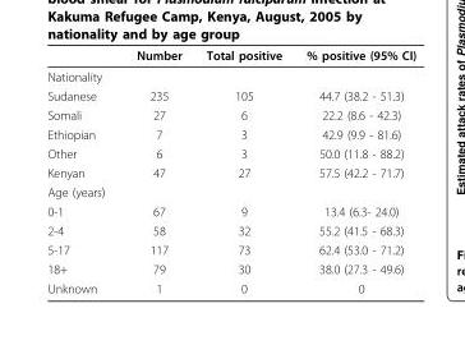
<table><thead><tr><td></td><td>Number</td><td>Total positive</td><td>% positive (95% CI)</td></tr></thead><tbody><tr><td colspan="4">Nationality</td></tr><tr><td>Sudanese</td><td>235</td><td>105</td><td>44.7 (38.2 - 51.3)</td></tr><tr><td>Somali</td><td>27</td><td>6</td><td>22.2 (8.6 - 42.3)</td></tr><tr><td>Ethiopian</td><td>7</td><td>3</td><td>42.9 (9.9 - 81.6)</td></tr><tr><td>Other</td><td>6</td><td>3</td><td>50.0 (11.8 - 88.2)</td></tr><tr><td>Kenyan</td><td>47</td><td>27</td><td>57.5 (42.2 - 71.7)</td></tr><tr><td colspan="4">Age (years)</td></tr><tr><td>0-1</td><td>67</td><td>9</td><td>13.4 (6.3- 24.0)</td></tr><tr><td>2-4</td><td>58</td><td>32</td><td>55.2 (41.5 - 68.3)</td></tr><tr><td>5-17</td><td>117</td><td>73</td><td>62.4 (53.0 - 71.2)</td></tr><tr><td>18+</td><td>79</td><td>30</td><td>38.0 (27.3 - 49.6)</td></tr><tr><td>Unknown</td><td>1</td><td>0</td><td>0</td></tr></tbody></table>